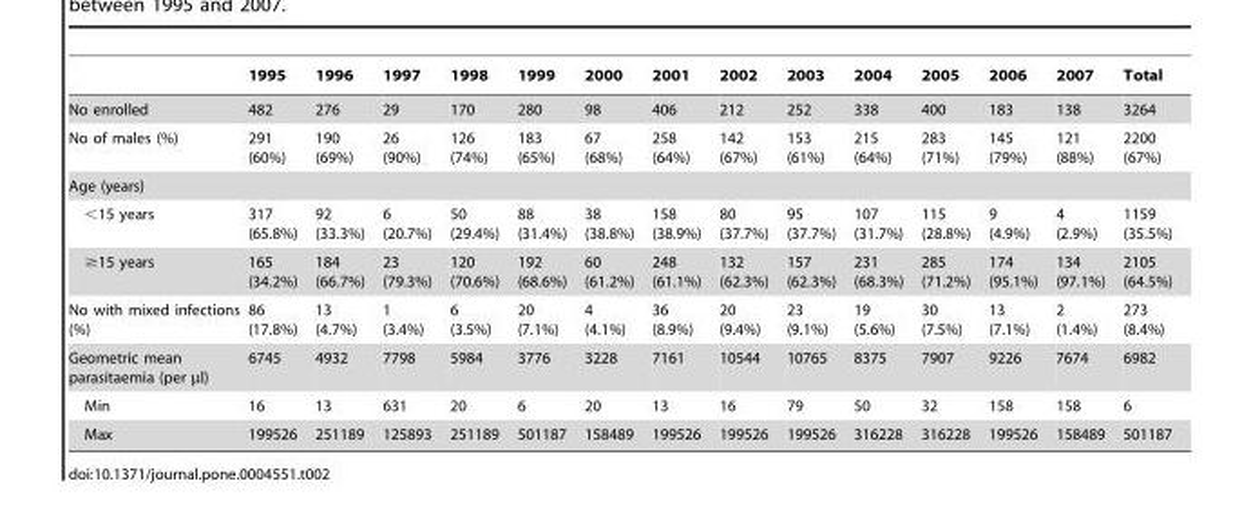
<table><thead><tr><td></td><td>1995</td><td>1996</td><td>1997</td><td>1998</td><td>1999</td><td>2000</td><td>2001</td><td>2002</td><td>2003</td><td>2004</td><td>2005</td><td>2006</td><td>2007</td><td>Total</td></tr></thead><tbody><tr><td>No enrolled</td><td>482</td><td>276</td><td>29</td><td>170</td><td>280</td><td>98</td><td>406</td><td>212</td><td>252</td><td>338</td><td>400</td><td>183</td><td>138</td><td>3264</td></tr><tr><td>No of males (%)</td><td>291 (60%)</td><td>190 (69%)</td><td>26 (90%)</td><td>126 (74%)</td><td>183 (65%)</td><td>67 (68%)</td><td>258 (64%)</td><td>142 (67%)</td><td>153 (61%)</td><td>215 (64%)</td><td>283 (71%)</td><td>145 (79%)</td><td>121 (88%)</td><td>2200 (67%)</td></tr><tr><td colspan="15">Age (years)</td></tr><tr><td>&lt;15 years</td><td>317 (65.8%)</td><td>92 (33.3%)</td><td>6 (20.7%)</td><td>50 (29.4%)</td><td>88 (31.4%)</td><td>38 (38.8%)</td><td>158 (38.9%)</td><td>80 (37.7%)</td><td>95 (37.7%)</td><td>107 (31.7%)</td><td>115 (28.8%)</td><td>9 (4.9%)</td><td>4 (2.9%)</td><td>1159 (35.5%)</td></tr><tr><td>≥15 years</td><td>165 (34.2%)</td><td>184 (66.7%)</td><td>23 (79.3%)</td><td>120 (70.6%)</td><td>192 (68.6%)</td><td>60 (61.2%)</td><td>248 (61.1%)</td><td>132 (62.3%)</td><td>157 (62.3%)</td><td>231 (68.3%)</td><td>285 (71.2%)</td><td>174 (95.1%)</td><td>134 (97.1%)</td><td>2105 (64.5%)</td></tr><tr><td>No with mixed infections (%)</td><td>86 (17.8%)</td><td>13 (4.7%)</td><td>1 (3.4%)</td><td>6 (3.5%)</td><td>20 (7.1%)</td><td>4 (4.1%)</td><td>36 (8.9%)</td><td>20 (9.4%)</td><td>23 (9.1%)</td><td>19 (5.6%)</td><td>30 (7.5%)</td><td>13 (7.1%)</td><td>2 (1.4%)</td><td>273 (8.4%)</td></tr><tr><td>Geometric mean parasitaemia (per µl)</td><td>6745</td><td>4932</td><td>7798</td><td>5984</td><td>3776</td><td>3228</td><td>7161</td><td>10544</td><td>10765</td><td>8375</td><td>7907</td><td>9226</td><td>7674</td><td>6982</td></tr><tr><td>Min</td><td>16</td><td>13</td><td>631</td><td>20</td><td>6</td><td>20</td><td>13</td><td>16</td><td>79</td><td>50</td><td>32</td><td>158</td><td>158</td><td>6</td></tr><tr><td>Max</td><td>199526</td><td>251189</td><td>125893</td><td>251189</td><td>501187</td><td>158489</td><td>199526</td><td>199526</td><td>199526</td><td>316228</td><td>316228</td><td>199526</td><td>158489</td><td>501187</td></tr></tbody></table>